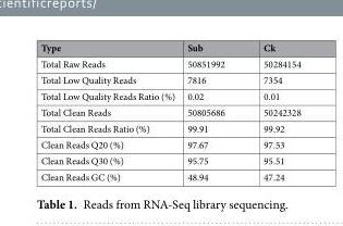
<table><thead><tr><td>Type</td><td>Sub</td><td>Ck</td></tr></thead><tbody><tr><td>Total Raw Reads</td><td>50851992</td><td>50284154</td></tr><tr><td>Total Low Quality Reads</td><td>7816</td><td>7354</td></tr><tr><td>Total Low Quality Reads Ratio (%)</td><td>0.02</td><td>0.01</td></tr><tr><td>Total Clean Reads</td><td>50805686</td><td>50242328</td></tr><tr><td>Total Clean Reads Ratio (%)</td><td>99.91</td><td>99.92</td></tr><tr><td>Clean Reads Q20 (%)</td><td>97.67</td><td>97.53</td></tr><tr><td>Clean Reads Q30 (%)</td><td>95.75</td><td>95.51</td></tr><tr><td>Clean Reads GC (%)</td><td>48.94</td><td>47.24</td></tr></tbody></table>